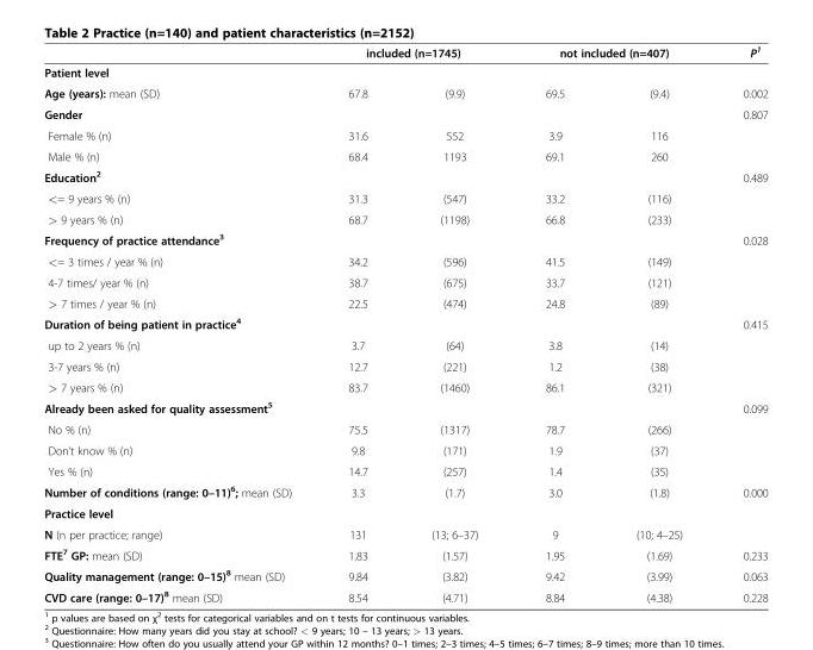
<table><thead><tr><td rowspan="2">Patient level</td><td colspan="2">included (n=1745)</td><td colspan="2">not included (n=407)</td><td rowspan="2">P<sup>1</sup></td></tr><tr><td></td><td></td><td></td><td></td></tr></thead><tbody><tr><td>Age (years): mean (SD)</td><td>67.8</td><td>(9.9)</td><td>69.5</td><td>(9.4)</td><td>0.002</td></tr><tr><td>Gender</td><td></td><td></td><td></td><td></td><td>0.807</td></tr><tr><td>Female % (n)</td><td>31.6</td><td>552</td><td>3.9</td><td>116</td><td></td></tr><tr><td>Male % (n)</td><td>68.4</td><td>1193</td><td>69.1</td><td>260</td><td></td></tr><tr><td>Education<sup>2</sup></td><td></td><td></td><td></td><td></td><td>0.489</td></tr><tr><td>&lt;= 9 years % (n)</td><td>31.3</td><td>(547)</td><td>33.2</td><td>(116)</td><td></td></tr><tr><td>&gt; 9 years % (n)</td><td>68.7</td><td>(1198)</td><td>66.8</td><td>(233)</td><td></td></tr><tr><td>Frequency of practice attendance<sup>3</sup></td><td></td><td></td><td></td><td></td><td>0.028</td></tr><tr><td>&lt;= 3 times / year % (n)</td><td>34.2</td><td>(596)</td><td>41.5</td><td>(149)</td><td></td></tr><tr><td>4-7 times/ year % (n)</td><td>38.7</td><td>(675)</td><td>33.7</td><td>(121)</td><td></td></tr><tr><td>&gt; 7 times / year % (n)</td><td>22.5</td><td>(474)</td><td>24.8</td><td>(89)</td><td></td></tr><tr><td>Duration of being patient in practice<sup>4</sup></td><td></td><td></td><td></td><td></td><td>0.415</td></tr><tr><td>up to 2 years % (n)</td><td>3.7</td><td>(64)</td><td>3.8</td><td>(14)</td><td></td></tr><tr><td>3-7 years % (n)</td><td>12.7</td><td>(221)</td><td>1.2</td><td>(38)</td><td></td></tr><tr><td>&gt; 7 years % (n)</td><td>83.7</td><td>(1460)</td><td>86.1</td><td>(321)</td><td></td></tr><tr><td>Already been asked for quality assessment<sup>5</sup></td><td></td><td></td><td></td><td></td><td>0.099</td></tr><tr><td>No % (n)</td><td>75.5</td><td>(1317)</td><td>78.7</td><td>(266)</td><td></td></tr><tr><td>Don’t know % (n)</td><td>9.8</td><td>(171)</td><td>1.9</td><td>(37)</td><td></td></tr><tr><td>Yes % (n)</td><td>14.7</td><td>(257)</td><td>1.4</td><td>(35)</td><td></td></tr><tr><td>Number of conditions (range: 0–11)<sup>6</sup>; mean (SD)</td><td>3.3</td><td>(1.7)</td><td>3.0</td><td>(1.8)</td><td>0.000</td></tr><tr><td colspan="6">Practice level</td></tr><tr><td>N (n per practice; range)</td><td>131</td><td>(13; 6–37)</td><td>9</td><td>(10; 4–25)</td><td></td></tr><tr><td>FTE<sup>7</sup> GP: mean (SD)</td><td>1.83</td><td>(1.57)</td><td>1.95</td><td>(1.69)</td><td>0.233</td></tr><tr><td>Quality management (range: 0–15)<sup>8</sup> mean (SD)</td><td>9.84</td><td>(3.82)</td><td>9.42</td><td>(3.99)</td><td>0.063</td></tr><tr><td>CVD care (range: 0–17)<sup>8</sup> mean (SD)</td><td>8.54</td><td>(4.71)</td><td>8.84</td><td>(4.38)</td><td>0.228</td></tr></tbody></table>